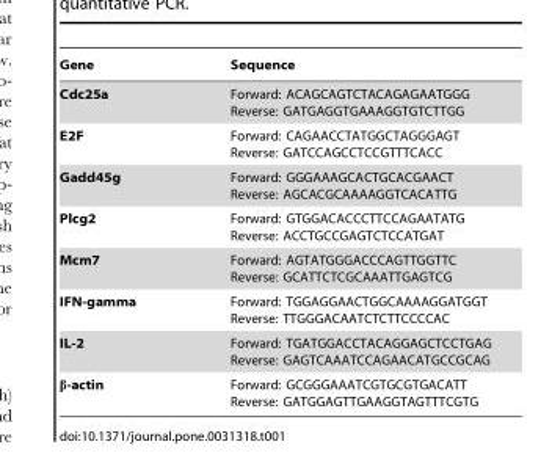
<table><thead><tr><td>Gene</td><td>Sequence</td></tr></thead><tbody><tr><td>Cdc25a</td><td>Forward: ACAGCAGTCTACAGAGAATGGG Reverse: GATGAGGTGAAAGGTGTCTTGG</td></tr><tr><td>E2F</td><td>Forward: CAGAACCTATGGCTAGGGAGT Reverse: GATCCAGCCTCCGTTTCACC</td></tr><tr><td>Gadd45g</td><td>Forward: GGGAAAGCACTGCACGAACT Reverse: AGCACGCAAAAGGTCACATTG</td></tr><tr><td>Plcg2</td><td>Forward: GTGGACACCCTTCCAGAATATG Reverse: ACCTGCCGAGTCTCCATGAT</td></tr><tr><td>Mcm7</td><td>Forward: AGTATGGGACCCAGTTGGTTC Reverse: GCATTCTCGCAAATTGAGTCG</td></tr><tr><td>IFN-gamma</td><td>Forward: TGGAGGAACTGGCAAAAGGATGGT Reverse: TTGGGACAATCTCTTCCCCAC</td></tr><tr><td>IL-2</td><td>Forward: TGATGGACCTACAGGAGCTCCTGAG Reverse: GAGTCAAATCCAGAACATGCCGCAG</td></tr><tr><td>β-actin</td><td>Forward: GCGGGAAATCGTGCGTGACATT Reverse: GATGGAGTTGAAGGTAGTTTCGTG</td></tr></tbody></table>